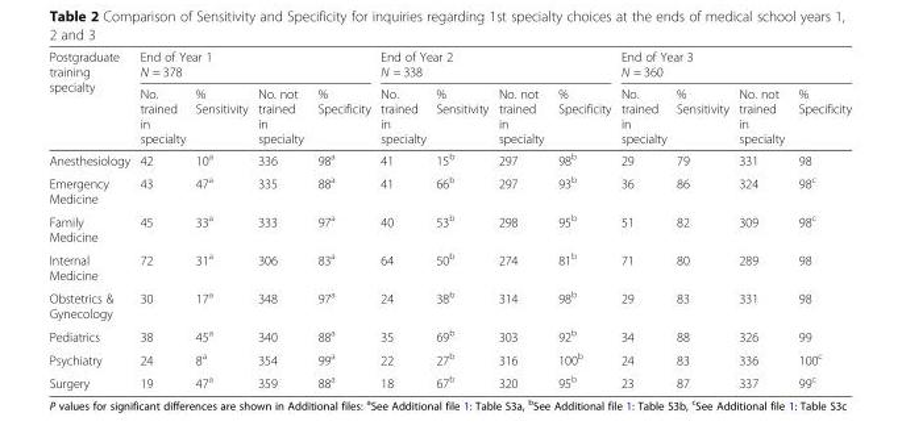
<table><thead><tr><td rowspan="2">Postgraduate training specialty</td><td colspan="4">End of Year 1 N = 378</td><td colspan="4">End of Year 2 N = 338</td><td colspan="4">End of Year 3 N = 360</td></tr><tr><td>No. trained in specialty</td><td>% Sensitivity</td><td>No. not trained in specialty</td><td>% Specificity</td><td>No. trained in specialty</td><td>% Sensitivity</td><td>No. not trained in specialty</td><td>% Specificity</td><td>No. trained in specialty</td><td>% Sensitivity</td><td>No. not trained in specialty</td><td>% Specificity</td></tr></thead><tbody><tr><td>Anesthesiology</td><td>42</td><td>10<sup>a</sup></td><td>336</td><td>98<sup>a</sup></td><td>41</td><td>15<sup>b</sup></td><td>297</td><td>98<sup>b</sup></td><td>29</td><td>79</td><td>331</td><td>98</td></tr><tr><td>Emergency Medicine</td><td>43</td><td>47<sup>a</sup></td><td>335</td><td>88<sup>a</sup></td><td>41</td><td>66<sup>b</sup></td><td>297</td><td>93<sup>b</sup></td><td>36</td><td>86</td><td>324</td><td>98<sup>c</sup></td></tr><tr><td>Family Medicine</td><td>45</td><td>33<sup>a</sup></td><td>333</td><td>97<sup>a</sup></td><td>40</td><td>53<sup>b</sup></td><td>298</td><td>95<sup>b</sup></td><td>51</td><td>82</td><td>309</td><td>98<sup>c</sup></td></tr><tr><td>Internal Medicine</td><td>72</td><td>31<sup>a</sup></td><td>306</td><td>83<sup>a</sup></td><td>64</td><td>50<sup>b</sup></td><td>274</td><td>81<sup>b</sup></td><td>71</td><td>80</td><td>289</td><td>98</td></tr><tr><td>Obstetrics &amp; Gynecology</td><td>30</td><td>17<sup>a</sup></td><td>348</td><td>97<sup>a</sup></td><td>24</td><td>38<sup>b</sup></td><td>314</td><td>98<sup>b</sup></td><td>29</td><td>83</td><td>331</td><td>98</td></tr><tr><td>Pediatrics</td><td>38</td><td>45<sup>a</sup></td><td>340</td><td>88<sup>a</sup></td><td>35</td><td>69<sup>b</sup></td><td>303</td><td>92<sup>b</sup></td><td>34</td><td>88</td><td>326</td><td>99</td></tr><tr><td>Psychiatry</td><td>24</td><td>8<sup>a</sup></td><td>354</td><td>99<sup>a</sup></td><td>22</td><td>27<sup>b</sup></td><td>316</td><td>100<sup>b</sup></td><td>24</td><td>83</td><td>336</td><td>100<sup>c</sup></td></tr><tr><td>Surgery</td><td>19</td><td>47<sup>a</sup></td><td>359</td><td>88<sup>a</sup></td><td>18</td><td>67<sup>b</sup></td><td>320</td><td>95<sup>b</sup></td><td>23</td><td>87</td><td>337</td><td>99<sup>c</sup></td></tr></tbody></table>